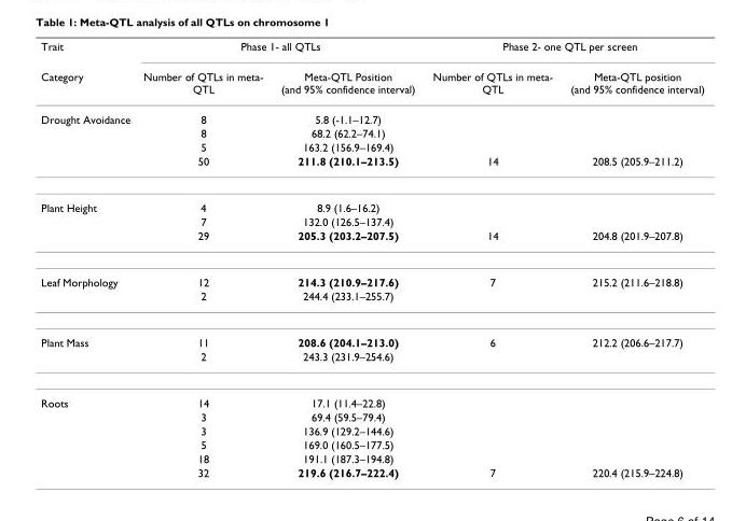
<table><thead><tr><td rowspan="2">Trait Category</td><td colspan="2">Phase 1- all QTLs</td><td colspan="2">Phase 2- one QTL per screen</td></tr><tr><td>Number of QTLs in meta- QTL</td><td>Meta-QTL Position (and 95% confidence interval)</td><td>Number of QTLs in meta- QTL</td><td>Meta-QTL position (and 95% confidence interval)</td></tr></thead><tbody><tr><td rowspan="4">Drought Avoidance</td><td>8</td><td>5.8 (-1.1–12.7)</td><td></td><td></td></tr><tr><td>8</td><td>68.2 (62.2–74.1)</td><td></td><td></td></tr><tr><td>5</td><td>163.2 (156.9–169.4)</td><td></td><td></td></tr><tr><td>50</td><td>211.8 (210.1–213.5)</td><td>14</td><td>208.5 (205.9–211.2)</td></tr><tr><td rowspan="3">Plant Height</td><td>4</td><td>8.9 (1.6–16.2)</td><td></td><td></td></tr><tr><td>7</td><td>132.0 (126.5–137.4)</td><td></td><td></td></tr><tr><td>29</td><td>205.3 (203.2–207.5)</td><td>14</td><td>204.8 (201.9–207.8)</td></tr><tr><td rowspan="2">Leaf Morphology</td><td>12</td><td>214.3 (210.9–217.6)</td><td>7</td><td>215.2 (211.6–218.8)</td></tr><tr><td>2</td><td>244.4 (233.1–255.7)</td><td></td><td></td></tr><tr><td rowspan="2">Plant Mass</td><td>11</td><td>208.6 (204.1–213.0)</td><td>6</td><td>212.2 (206.6–217.7)</td></tr><tr><td>2</td><td>243.3 (231.9–254.6)</td><td></td><td></td></tr><tr><td rowspan="6">Roots</td><td>14</td><td>17.1 (11.4–22.8)</td><td></td><td></td></tr><tr><td>3</td><td>69.4 (59.5–79.4)</td><td></td><td></td></tr><tr><td>3</td><td>136.9 (129.2–144.6)</td><td></td><td></td></tr><tr><td>5</td><td>169.0 (160.5–177.5)</td><td></td><td></td></tr><tr><td>18</td><td>191.1 (187.3–194.8)</td><td></td><td></td></tr><tr><td>32</td><td>219.6 (216.7–222.4)</td><td>7</td><td>220.4 (215.9–224.8)</td></tr></tbody></table>